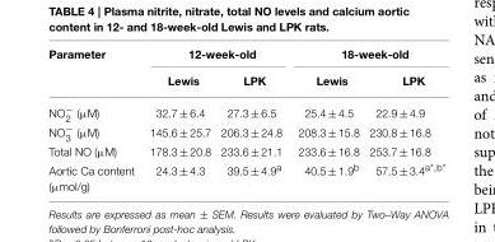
<table><thead><tr><td rowspan="2">Parameter</td><td colspan="2">12-week-old</td><td colspan="2">18-week-old</td></tr><tr><td>Lewis</td><td>LPK</td><td>Lewis</td><td>LPK</td></tr></thead><tbody><tr><td>NO<sup>−</sup> <sub>2</sub> (µM)</td><td>32.7 ± 6.4</td><td>27.3 ± 6.5</td><td>25.4 ± 4.5</td><td>22.9 ± 4.9</td></tr><tr><td>NO<sup>−</sup> <sub>3</sub> (µM)</td><td>145.6 ± 25.7</td><td>206.3 ± 24.8</td><td>208.3 ± 15.8</td><td>230.8 ± 16.8</td></tr><tr><td>Total NO (µM)</td><td>178.3 ± 20.8</td><td>233.6 ± 21.1</td><td>233.6 ± 16.8</td><td>253.7 ± 16.8</td></tr><tr><td>Aortic Ca content (µmol/g)</td><td>24.3 ± 4.3</td><td>39.5 ± 4.9<sup>a</sup></td><td>40.5 ± 1.9<sup>b</sup></td><td>57.5 ± 3.4<sup>a*,b*</sup></td></tr></tbody></table>